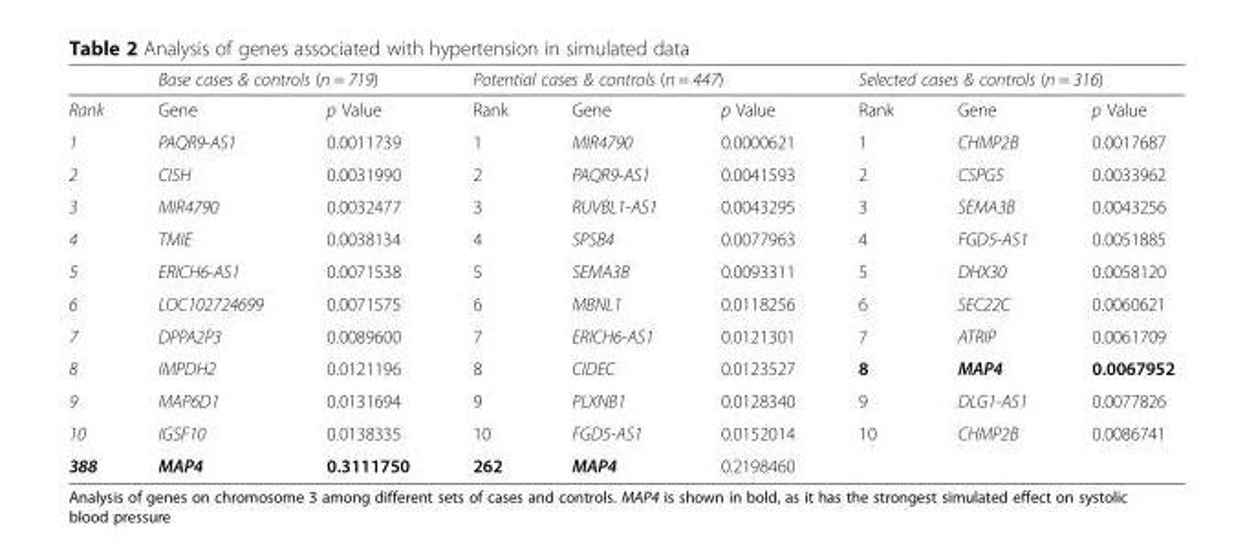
<table><thead><tr><td rowspan="2">Rank</td><td colspan="2">Base cases &amp; controls (n = 719)</td><td colspan="3">Potential cases &amp; controls (n = 447)</td><td colspan="3">Selected cases &amp; controls (n = 316)</td></tr><tr><td>Gene</td><td>p Value</td><td>Rank</td><td>Gene</td><td>p Value</td><td>Rank</td><td>Gene</td><td>p Value</td></tr></thead><tbody><tr><td>1</td><td>PAQR9-AS1</td><td>0.0011739</td><td>1</td><td>MIR4790</td><td>0.0000621</td><td>1</td><td>CHMP2B</td><td>0.0017687</td></tr><tr><td>2</td><td>CISH</td><td>0.0031990</td><td>2</td><td>PAQR9-AS1</td><td>0.0041593</td><td>2</td><td>CSPG5</td><td>0.0033962</td></tr><tr><td>3</td><td>MIR4790</td><td>0.0032477</td><td>3</td><td>RUVBL1-AS1</td><td>0.0043295</td><td>3</td><td>SEMA3B</td><td>0.0043256</td></tr><tr><td>4</td><td>TMIE</td><td>0.0038134</td><td>4</td><td>SPSB4</td><td>0.0077963</td><td>4</td><td>FGD5-AS1</td><td>0.0051885</td></tr><tr><td>5</td><td>ERICH6-AS1</td><td>0.0071538</td><td>5</td><td>SEMA3B</td><td>0.0093311</td><td>5</td><td>DHX30</td><td>0.0058120</td></tr><tr><td>6</td><td>LOC102724699</td><td>0.0071575</td><td>6</td><td>MBNL1</td><td>0.0118256</td><td>6</td><td>SEC22C</td><td>0.0060621</td></tr><tr><td>7</td><td>DPPA2P3</td><td>0.0089600</td><td>7</td><td>ERICH6-AS1</td><td>0.0121301</td><td>7</td><td>ATRIP</td><td>0.0061709</td></tr><tr><td>8</td><td>IMPDH2</td><td>0.0121196</td><td>8</td><td>CIDEC</td><td>0.0123527</td><td>8</td><td>MAP4</td><td>0.0067952</td></tr><tr><td>9</td><td>MAP6D1</td><td>0.0131694</td><td>9</td><td>PLXNB1</td><td>0.0128340</td><td>9</td><td>DLG1-AS1</td><td>0.0077826</td></tr><tr><td>10</td><td>IGSF10</td><td>0.0138335</td><td>10</td><td>FGD5-AS1</td><td>0.0152014</td><td>10</td><td>CHMP2B</td><td>0.0086741</td></tr><tr><td>388</td><td>MAP4</td><td>0.3111750</td><td>262</td><td>MAP4</td><td>0.2198460</td><td></td><td></td><td></td></tr></tbody></table>